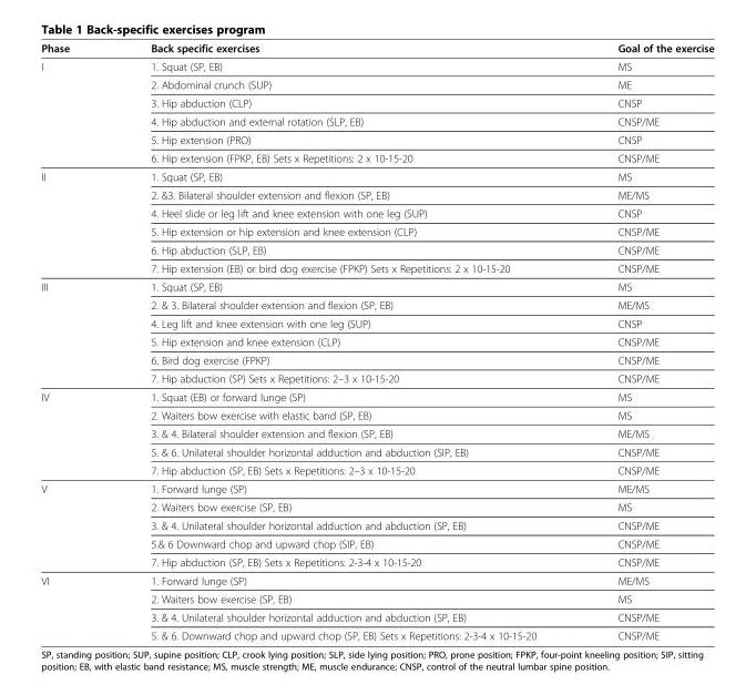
<table><thead><tr><td>Phase</td><td>Back specific exercises</td><td>Goal of the exercise</td></tr></thead><tbody><tr><td rowspan="6">I</td><td>1. Squat (SP, EB)</td><td>MS</td></tr><tr><td>2. Abdominal crunch (SUP)</td><td>ME</td></tr><tr><td>3. Hip abduction (CLP)</td><td>CNSP</td></tr><tr><td>4. Hip abduction and external rotation (SLP, EB)</td><td>CNSP/ME</td></tr><tr><td>5. Hip extension (PRO)</td><td>CNSP</td></tr><tr><td>6. Hip extension (FPKP, EB) Sets x Repetitions: 2 x 10-15-20</td><td>CNSP/ME</td></tr><tr><td rowspan="6">II</td><td>1. Squat (SP, EB)</td><td>MS</td></tr><tr><td>2. &amp;3. Bilateral shoulder extension and flexion (SP, EB)</td><td>ME/MS</td></tr><tr><td>4. Heel slide or leg lift and knee extension with one leg (SUP)</td><td>CNSP</td></tr><tr><td>5. Hip extension or hip extension and knee extension (CLP)</td><td>CNSP/ME</td></tr><tr><td>6. Hip abduction (SLP, EB)</td><td>CNSP/ME</td></tr><tr><td>7. Hip extension (EB) or bird dog exercise (FPKP) Sets x Repetitions: 2 x 10-15-20</td><td>CNSP/ME</td></tr><tr><td rowspan="6">III</td><td>1. Squat (SP, EB)</td><td>MS</td></tr><tr><td>2. &amp; 3. Bilateral shoulder extension and flexion (SP, EB)</td><td>ME/MS</td></tr><tr><td>4. Leg lift and knee extension with one leg (SUP)</td><td>CNSP</td></tr><tr><td>5. Hip extension and knee extension (CLP)</td><td>CNSP/ME</td></tr><tr><td>6. Bird dog exercise (FPKP)</td><td>CNSP/ME</td></tr><tr><td>7. Hip abduction (SP) Sets x Repetitions: 2–3 x 10-15-20</td><td>CNSP/ME</td></tr><tr><td rowspan="5">IV</td><td>1. Squat (EB) or forward lunge (SP)</td><td>MS</td></tr><tr><td>2. Waiters bow exercise with elastic band (SP, EB)</td><td>MS</td></tr><tr><td>3. &amp; 4. Bilateral shoulder extension and flexion (SP, EB)</td><td>ME/MS</td></tr><tr><td>5. &amp; 6. Unilateral shoulder horizontal adduction and abduction (SIP, EB)</td><td>CNSP/ME</td></tr><tr><td>7. Hip abduction (SP, EB) Sets x Repetitions: 2–3 x 10-15-20</td><td>CNSP/ME</td></tr><tr><td rowspan="5">V</td><td>1. Forward lunge (SP)</td><td>ME/MS</td></tr><tr><td>2. Waiters bow exercise (SP, EB)</td><td>MS</td></tr><tr><td>3. &amp; 4. Unilateral shoulder horizontal adduction and abduction (SP, EB)</td><td>CNSP/ME</td></tr><tr><td>5.&amp; 6 Downward chop and upward chop (SIP, EB)</td><td>CNSP/ME</td></tr><tr><td>7. Hip abduction (SP, EB) Sets x Repetitions: 2-3-4 x 10-15-20</td><td>CNSP/ME</td></tr><tr><td rowspan="4">VI</td><td>1. Forward lunge (SP)</td><td>ME/MS</td></tr><tr><td>2. Waiters bow exercise (SP, EB)</td><td>MS</td></tr><tr><td>3. &amp; 4. Unilateral shoulder horizontal adduction and abduction (SP, EB)</td><td>CNSP/ME</td></tr><tr><td>5. &amp; 6. Downward chop and upward chop (SP, EB) Sets x Repetitions: 2-3-4 x 10-15-20</td><td>CNSP/ME</td></tr></tbody></table>